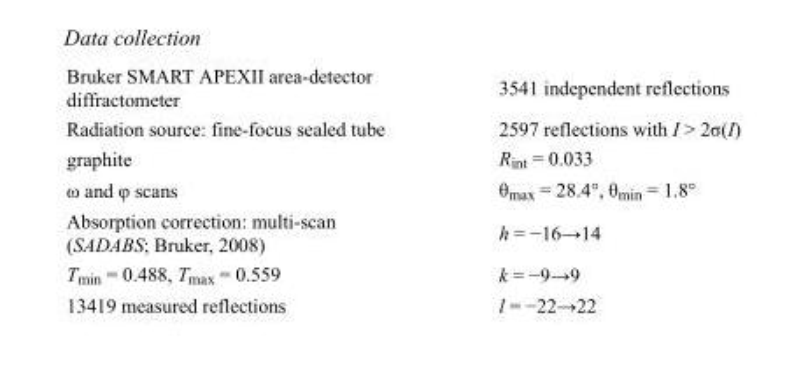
<table><tbody><tr><td>Bruker SMART APEXII area-detector diffractometer</td><td>3541 independent reflections</td></tr><tr><td>Radiation source: fine-focus sealed tube</td><td>2597 reflections with I &gt; 2σ(I)</td></tr><tr><td>graphite</td><td>R<sub>int</sub> = 0.033</td></tr><tr><td>ω and φ scans</td><td>θ<sub>max</sub> = 28.4°, θ<sub>min</sub> = 1.8°</td></tr><tr><td>Absorption correction: multi-scan (SADABS; Bruker, 2008)</td><td>h = −16→14</td></tr><tr><td>T<sub>min</sub> = 0.488, T<sub>max</sub> = 0.559</td><td>k = −9→9</td></tr><tr><td>13419 measured reflections</td><td>l = −22→22</td></tr></tbody></table>